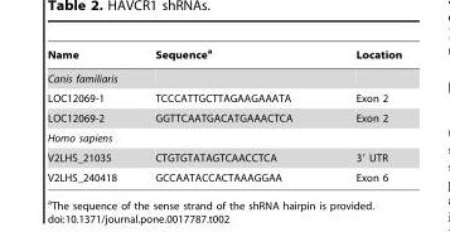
<table><thead><tr><td>Name</td><td>Sequence<sup>a</sup></td><td>Location</td></tr></thead><tbody><tr><td colspan="3">Canis familiaris</td></tr><tr><td>LOC12069-1</td><td>TCCCATTGCTTAGAAGAAATA</td><td>Exon 2</td></tr><tr><td>LOC12069-2</td><td>GGTTCAATGACATGAAACTCA</td><td>Exon 2</td></tr><tr><td colspan="3">Homo sapiens</td></tr><tr><td>V2LHS_21035</td><td>CTGTGTATAGTCAACCTCA</td><td>3′ UTR</td></tr><tr><td>V2LHS_240418</td><td>GCCAATACCACTAAAGGAA</td><td>Exon 6</td></tr></tbody></table>